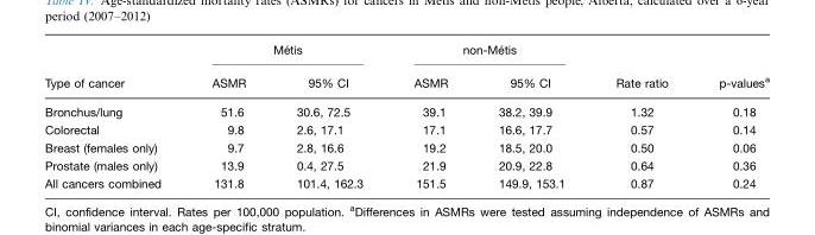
<table><thead><tr><td rowspan="2">Type of cancer</td><td colspan="2">Me´ tis</td><td colspan="2">non-Me´ tis</td><td rowspan="2">Rate ratio</td><td rowspan="2">p-values<sup>a</sup></td></tr><tr><td>ASMR</td><td>95% CI</td><td>ASMR</td><td>95% CI</td></tr></thead><tbody><tr><td>Bronchus/lung</td><td>51.6</td><td>30.6, 72.5</td><td>39.1</td><td>38.2, 39.9</td><td>1.32</td><td>0.18</td></tr><tr><td>Colorectal</td><td>9.8</td><td>2.6, 17.1</td><td>17.1</td><td>16.6, 17.7</td><td>0.57</td><td>0.14</td></tr><tr><td>Breast (females only)</td><td>9.7</td><td>2.8, 16.6</td><td>19.2</td><td>18.5, 20.0</td><td>0.50</td><td>0.06</td></tr><tr><td>Prostate (males only)</td><td>13.9</td><td>0.4, 27.5</td><td>21.9</td><td>20.9, 22.8</td><td>0.64</td><td>0.36</td></tr><tr><td>All cancers combined</td><td>131.8</td><td>101.4, 162.3</td><td>151.5</td><td>149.9, 153.1</td><td>0.87</td><td>0.24</td></tr></tbody></table>